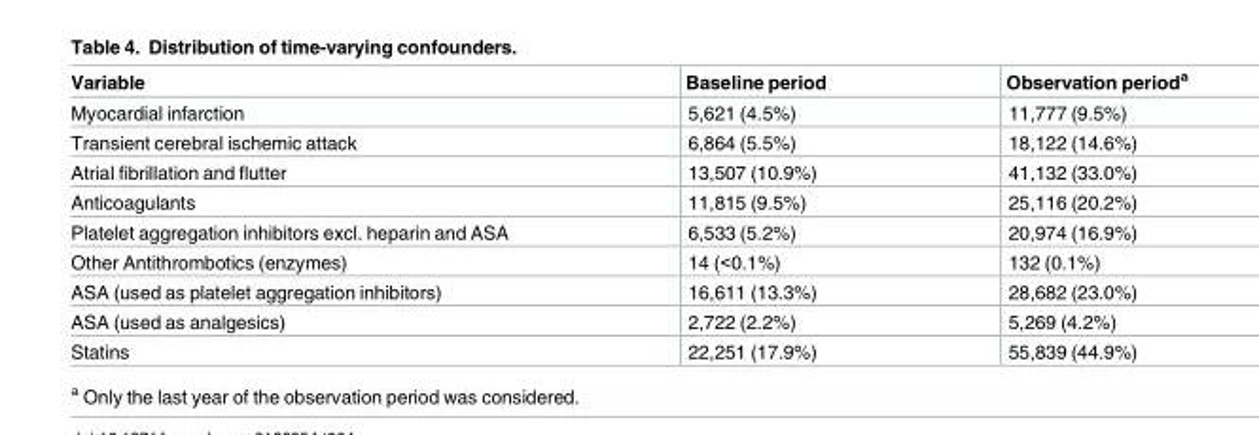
<table><thead><tr><td>Variable</td><td>Baseline period</td><td>Observation period<sup>a</sup></td></tr></thead><tbody><tr><td>Myocardial infarction</td><td>5,621 (4.5%)</td><td>11,777 (9.5%)</td></tr><tr><td>Transient cerebral ischemic attack</td><td>6,864 (5.5%)</td><td>18,122 (14.6%)</td></tr><tr><td>Atrial fibrillation and flutter</td><td>13,507 (10.9%)</td><td>41,132 (33.0%)</td></tr><tr><td>Anticoagulants</td><td>11,815 (9.5%)</td><td>25,116 (20.2%)</td></tr><tr><td>Platelet aggregation inhibitors excl. heparin and ASA</td><td>6,533 (5.2%)</td><td>20,974 (16.9%)</td></tr><tr><td>Other Antithrombotics (enzymes)</td><td>14 (&lt;0.1%)</td><td>132 (0.1%)</td></tr><tr><td>ASA (used as platelet aggregation inhibitors)</td><td>16,611 (13.3%)</td><td>28,682 (23.0%)</td></tr><tr><td>ASA (used as analgesics)</td><td>2,722 (2.2%)</td><td>5,269 (4.2%)</td></tr><tr><td>Statins</td><td>22,251 (17.9%)</td><td>55,839 (44.9%)</td></tr></tbody></table>